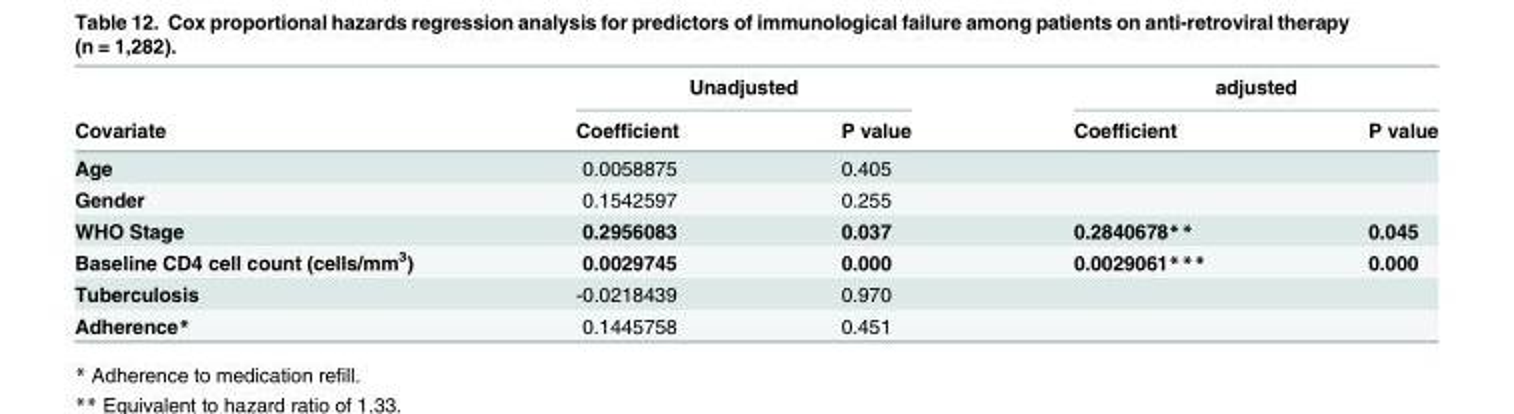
<table><thead><tr><td rowspan="2">Covariate</td><td colspan="2">Unadjusted</td><td colspan="2">adjusted</td></tr><tr><td>Coefficient</td><td>P value</td><td>Coefficient</td><td>P value</td></tr></thead><tbody><tr><td>Age</td><td>0.0058875</td><td>0.405</td><td></td><td></td></tr><tr><td>Gender</td><td>0.1542597</td><td>0.255</td><td></td><td></td></tr><tr><td>WHO Stage</td><td>0.2956083</td><td>0.037</td><td>0.2840678**</td><td>0.045</td></tr><tr><td>Baseline CD4 cell count (cells/mm<sup>3</sup>)</td><td>0.0029745</td><td>0.000</td><td>0.0029061***</td><td>0.000</td></tr><tr><td>Tuberculosis</td><td>-0.0218439</td><td>0.970</td><td></td><td></td></tr><tr><td>Adherence*</td><td>0.1445758</td><td>0.451</td><td></td><td></td></tr></tbody></table>